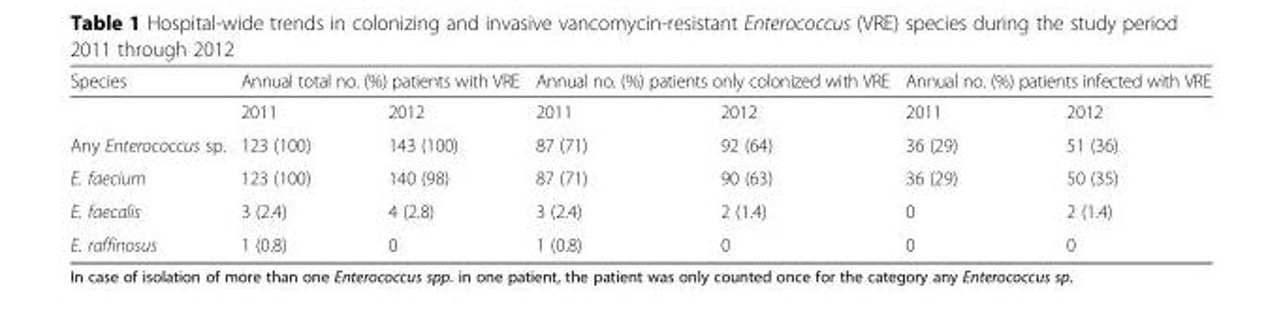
<table><thead><tr><td rowspan="2">Species</td><td colspan="2">Annual total no. (%) patients with VRE</td><td colspan="2">Annual no. (%) patients only colonized with VRE</td><td colspan="2">Annual no. (%) patients infected with VRE</td></tr><tr><td>2011</td><td>2012</td><td>2011</td><td>2012</td><td>2011</td><td>2012</td></tr></thead><tbody><tr><td>Any Enterococcus sp.</td><td>123 (100)</td><td>143 (100)</td><td>87 (71)</td><td>92 (64)</td><td>36 (29)</td><td>51 (36)</td></tr><tr><td>E. faecium</td><td>123 (100)</td><td>140 (98)</td><td>87 (71)</td><td>90 (63)</td><td>36 (29)</td><td>50 (35)</td></tr><tr><td>E. faecalis</td><td>3 (2.4)</td><td>4 (2.8)</td><td>3 (2.4)</td><td>2 (1.4)</td><td>0</td><td>2 (1.4)</td></tr><tr><td>E. raffinosus</td><td>1 (0.8)</td><td>0</td><td>1 (0.8)</td><td>0</td><td>0</td><td>0</td></tr></tbody></table>